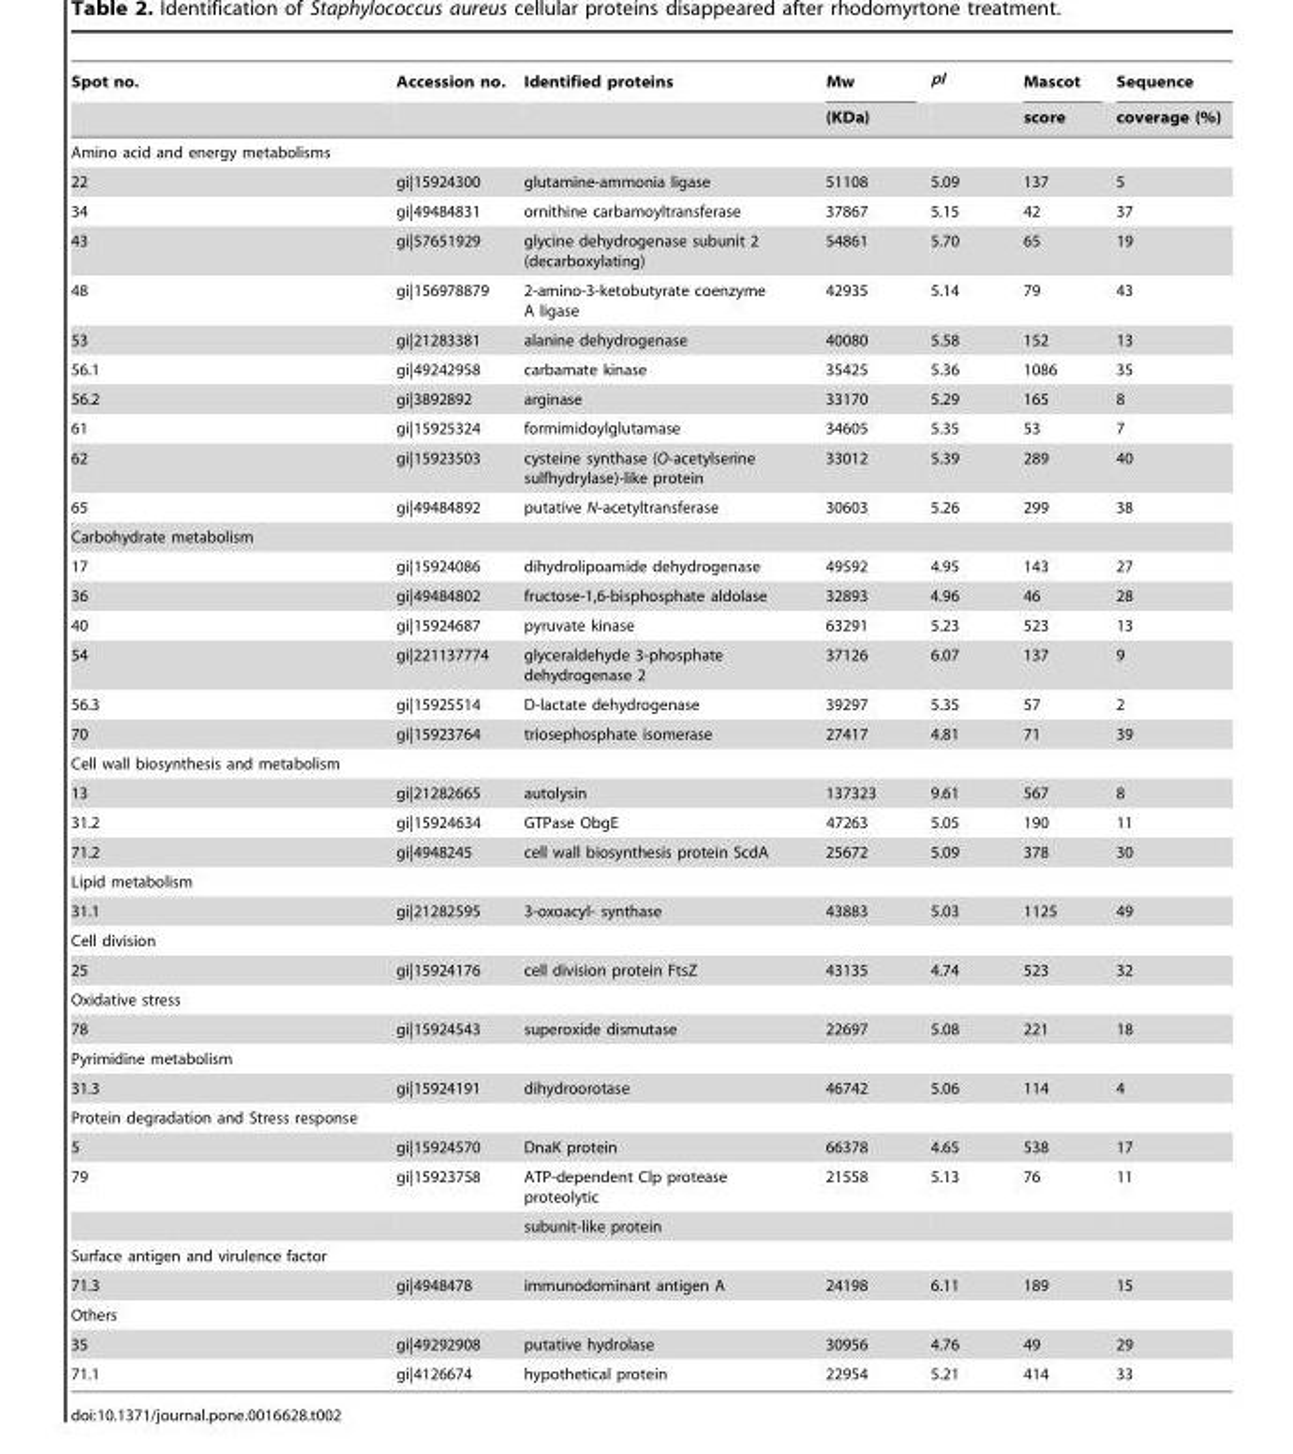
<table><thead><tr><td rowspan="2">Spot no.</td><td rowspan="2">Accession no.</td><td rowspan="2">Identified proteins</td><td rowspan="2">Mw (KDa)</td><td rowspan="2">pI</td><td rowspan="2">Mascot score</td><td rowspan="2">Sequence coverage (%)</td></tr><tr></tr></thead><tbody><tr><td colspan="7">Amino acid and energy metabolisms</td></tr><tr><td>22</td><td>gi|15924300</td><td>glutamine-ammonia ligase</td><td>51108</td><td>5.09</td><td>137</td><td>5</td></tr><tr><td>34</td><td>gi|49484831</td><td>ornithine carbamoyltransferase</td><td>37867</td><td>5.15</td><td>42</td><td>37</td></tr><tr><td>43</td><td>gi|57651929</td><td>glycine dehydrogenase subunit 2 (decarboxylating)</td><td>54861</td><td>5.70</td><td>65</td><td>19</td></tr><tr><td>48</td><td>gi|156978879</td><td>2-amino-3-ketobutyrate coenzyme A ligase</td><td>42935</td><td>5.14</td><td>79</td><td>43</td></tr><tr><td>53</td><td>gi|21283381</td><td>alanine dehydrogenase</td><td>40080</td><td>5.58</td><td>152</td><td>13</td></tr><tr><td>56.1</td><td>gi|49242958</td><td>carbamate kinase</td><td>35425</td><td>5.36</td><td>1086</td><td>35</td></tr><tr><td>56.2</td><td>gi|3892892</td><td>arginase</td><td>33170</td><td>5.29</td><td>165</td><td>8</td></tr><tr><td>61</td><td>gi|15925324</td><td>formimidoylglutamase</td><td>34605</td><td>5.35</td><td>53</td><td>7</td></tr><tr><td>62</td><td>gi|15923503</td><td>cysteine synthase (O-acetylserine sulfhydrylase)-like protein</td><td>33012</td><td>5.39</td><td>289</td><td>40</td></tr><tr><td>65</td><td>gi|49484892</td><td>putative N-acetyltransferase</td><td>30603</td><td>5.26</td><td>299</td><td>38</td></tr><tr><td colspan="7">Carbohydrate metabolism</td></tr><tr><td>17</td><td>gi|15924086</td><td>dihydrolipoamide dehydrogenase</td><td>49592</td><td>4.95</td><td>143</td><td>27</td></tr><tr><td>36</td><td>gi|49484802</td><td>fructose-1,6-bisphosphate aldolase</td><td>32893</td><td>4.96</td><td>46</td><td>28</td></tr><tr><td>40</td><td>gi|15924687</td><td>pyruvate kinase</td><td>63291</td><td>5.23</td><td>523</td><td>13</td></tr><tr><td>54</td><td>gi|221137774</td><td>glyceraldehyde 3-phosphate dehydrogenase 2</td><td>37126</td><td>6.07</td><td>137</td><td>9</td></tr><tr><td>56.3</td><td>gi|15925514</td><td>D-lactate dehydrogenase</td><td>39297</td><td>5.35</td><td>57</td><td>2</td></tr><tr><td>70</td><td>gi|15923764</td><td>triosephosphate isomerase</td><td>27417</td><td>4.81</td><td>71</td><td>39</td></tr><tr><td colspan="7">Cell wall biosynthesis and metabolism</td></tr><tr><td>13</td><td>gi|21282665</td><td>autolysin</td><td>137323</td><td>9.61</td><td>567</td><td>8</td></tr><tr><td>31.2</td><td>gi|15924634</td><td>GTPase ObgE</td><td>47263</td><td>5.05</td><td>190</td><td>11</td></tr><tr><td>71.2</td><td>gi|4948245</td><td>cell wall biosynthesis protein ScdA</td><td>25672</td><td>5.09</td><td>378</td><td>30</td></tr><tr><td colspan="7">Lipid metabolism</td></tr><tr><td>31.1</td><td>gi|21282595</td><td>3-oxoacyl- synthase</td><td>43883</td><td>5.03</td><td>1125</td><td>49</td></tr><tr><td colspan="7">Cell division</td></tr><tr><td>25</td><td>gi|15924176</td><td>cell division protein FtsZ</td><td>43135</td><td>4.74</td><td>523</td><td>32</td></tr><tr><td colspan="7">Oxidative stress</td></tr><tr><td>78</td><td>gi|15924543</td><td>superoxide dismutase</td><td>22697</td><td>5.08</td><td>221</td><td>18</td></tr><tr><td colspan="7">Pyrimidine metabolism</td></tr><tr><td>31.3</td><td>gi|15924191</td><td>dihydroorotase</td><td>46742</td><td>5.06</td><td>114</td><td>4</td></tr><tr><td colspan="7">Protein degradation and Stress response</td></tr><tr><td>5</td><td>gi|15924570</td><td>DnaK protein</td><td>66378</td><td>4.65</td><td>538</td><td>17</td></tr><tr><td rowspan="2">79</td><td>gi|15923758</td><td>ATP-dependent Clp protease proteolytic</td><td>21558</td><td>5.13</td><td>76</td><td>11</td></tr><tr><td></td><td>subunit-like protein</td><td></td><td></td><td></td><td></td></tr><tr><td colspan="7">Surface antigen and virulence factor</td></tr><tr><td>71.3</td><td>gi|4948478</td><td>immunodominant antigen A</td><td>24198</td><td>6.11</td><td>189</td><td>15</td></tr><tr><td colspan="7">Others</td></tr><tr><td>35</td><td>gi|49292908</td><td>putative hydrolase</td><td>30956</td><td>4.76</td><td>49</td><td>29</td></tr><tr><td>71.1</td><td>gi|4126674</td><td>hypothetical protein</td><td>22954</td><td>5.21</td><td>414</td><td>33</td></tr></tbody></table>